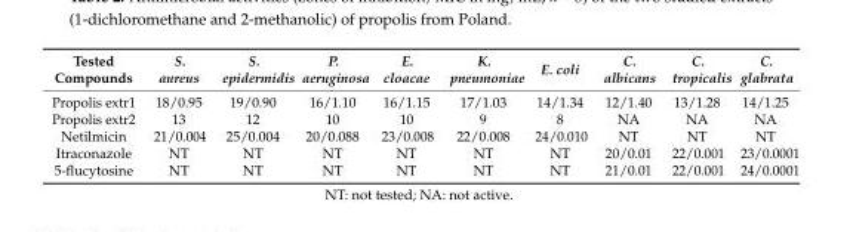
<table><thead><tr><td>Tested Compounds</td><td>S. aureus</td><td>S. epidermidis</td><td>P. aeruginosa</td><td>E. cloacae</td><td>K. pneumoniae</td><td>E. coli</td><td>C. albicans</td><td>C. tropicalis</td><td>C. glabrata</td></tr></thead><tbody><tr><td>Propolis extr1</td><td>18/0.95</td><td>19/0.90</td><td>16/1.10</td><td>16/1.15</td><td>17/1.03</td><td>14/1.34</td><td>12/1.40</td><td>13/1.28</td><td>14/1.25</td></tr><tr><td>Propolis extr2</td><td>13</td><td>12</td><td>10</td><td>10</td><td>9</td><td>8</td><td>NA</td><td>NA</td><td>NA</td></tr><tr><td>Netilmicin</td><td>21/0.004</td><td>25/0.004</td><td>20/0.088</td><td>23/0.008</td><td>22/0.008</td><td>24/0.010</td><td>NT</td><td>NT</td><td>NT</td></tr><tr><td>Itraconazole</td><td>NT</td><td>NT</td><td>NT</td><td>NT</td><td>NT</td><td>NT</td><td>20/0.01</td><td>22/0.001</td><td>23/0.0001</td></tr><tr><td>5-flucytosine</td><td>NT</td><td>NT</td><td>NT</td><td>NT</td><td>NT</td><td>NT</td><td>21/0.01</td><td>22/0.001</td><td>24/0.0001</td></tr></tbody></table>